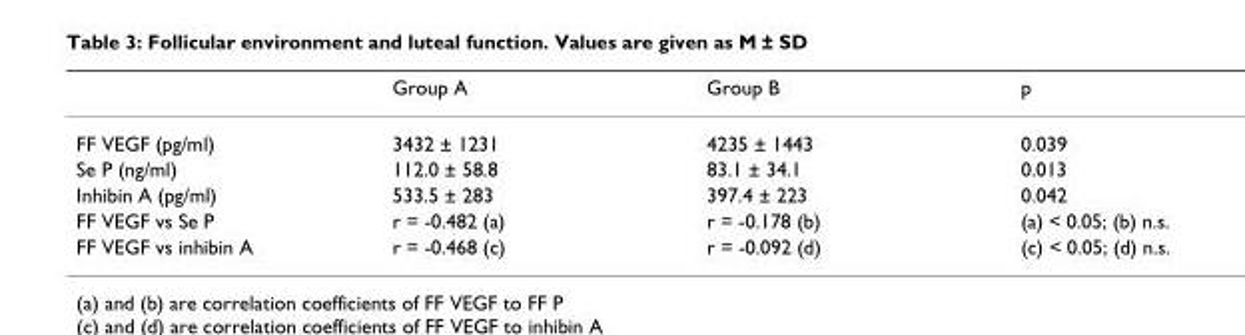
<table><thead><tr><td></td><td>Group A</td><td>Group B</td><td>p</td></tr></thead><tbody><tr><td>FF VEGF (pg/ml)</td><td>3432 ± 1231</td><td>4235 ± 1443</td><td>0.039</td></tr><tr><td>Se P (ng/ml)</td><td>112.0 ± 58.8</td><td>83.1 ± 34.1</td><td>0.013</td></tr><tr><td>Inhibin A (pg/ml)</td><td>533.5 ± 283</td><td>397.4 ± 223</td><td>0.042</td></tr><tr><td>FF VEGF vs Se P</td><td>r = -0.482 (a)</td><td>r = -0.178 (b)</td><td>(a) &lt; 0.05; (b) n.s.</td></tr><tr><td>FF VEGF vs inhibin A</td><td>r = -0.468 (c)</td><td>r = -0.092 (d)</td><td>(c) &lt; 0.05; (d) n.s.</td></tr></tbody></table>